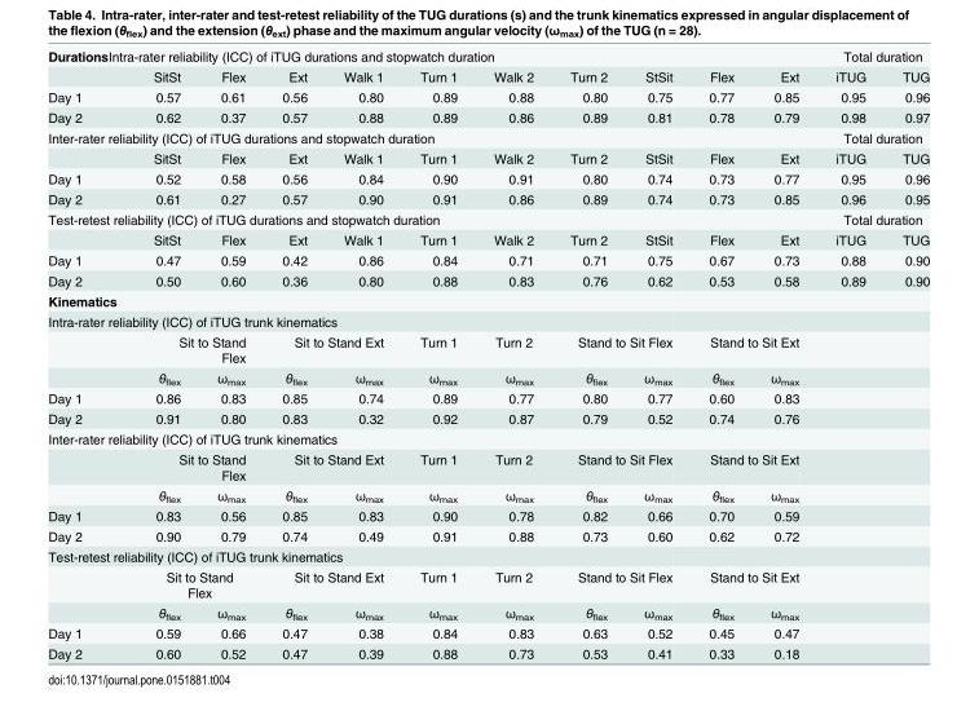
<table><tbody><tr><td colspan="9">DurationsIntra-rater reliability (ICC) of iTUG durations and stopwatch duration</td><td></td><td></td><td colspan="2">Total duration</td></tr><tr><td></td><td>SitSt</td><td>Flex</td><td>Ext</td><td>Walk 1</td><td>Turn 1</td><td>Walk 2</td><td>Turn 2</td><td>StSit</td><td>Flex</td><td>Ext</td><td>iTUG</td><td>TUG</td></tr><tr><td>Day 1</td><td>0.57</td><td>0.61</td><td>0.56</td><td>0.80</td><td>0.89</td><td>0.88</td><td>0.80</td><td>0.75</td><td>0.77</td><td>0.85</td><td>0.95</td><td>0.96</td></tr><tr><td>Day 2</td><td>0.62</td><td>0.37</td><td>0.57</td><td>0.88</td><td>0.89</td><td>0.86</td><td>0.89</td><td>0.81</td><td>0.78</td><td>0.79</td><td>0.98</td><td>0.97</td></tr><tr><td colspan="9">Inter-rater reliability (ICC) of iTUG durations and stopwatch duration</td><td></td><td></td><td colspan="2">Total duration</td></tr><tr><td></td><td>SitSt</td><td>Flex</td><td>Ext</td><td>Walk 1</td><td>Turn 1</td><td>Walk 2</td><td>Turn 2</td><td>StSit</td><td>Flex</td><td>Ext</td><td>iTUG</td><td>TUG</td></tr><tr><td>Day 1</td><td>0.52</td><td>0.58</td><td>0.56</td><td>0.84</td><td>0.90</td><td>0.91</td><td>0.80</td><td>0.74</td><td>0.73</td><td>0.77</td><td>0.95</td><td>0.96</td></tr><tr><td>Day 2</td><td>0.61</td><td>0.27</td><td>0.57</td><td>0.90</td><td>0.91</td><td>0.86</td><td>0.89</td><td>0.74</td><td>0.73</td><td>0.85</td><td>0.96</td><td>0.95</td></tr><tr><td colspan="9">Test-retest reliability (ICC) of iTUG durations and stopwatch duration</td><td></td><td></td><td colspan="2">Total duration</td></tr><tr><td></td><td>SitSt</td><td>Flex</td><td>Ext</td><td>Walk 1</td><td>Turn 1</td><td>Walk 2</td><td>Turn 2</td><td>StSit</td><td>Flex</td><td>Ext</td><td>iTUG</td><td>TUG</td></tr><tr><td>Day 1</td><td>0.47</td><td>0.59</td><td>0.42</td><td>0.86</td><td>0.84</td><td>0.71</td><td>0.71</td><td>0.75</td><td>0.67</td><td>0.73</td><td>0.88</td><td>0.90</td></tr><tr><td>Day 2</td><td>0.50</td><td>0.60</td><td>0.36</td><td>0.80</td><td>0.88</td><td>0.83</td><td>0.76</td><td>0.62</td><td>0.53</td><td>0.58</td><td>0.89</td><td>0.90</td></tr><tr><td colspan="13">Kinematics</td></tr><tr><td colspan="13">Intra-rater reliability (ICC) of iTUG trunk kinematics</td></tr><tr><td></td><td colspan="2">Sit to Stand Flex</td><td colspan="2">Sit to Stand Ext</td><td>Turn 1</td><td>Turn 2</td><td colspan="2">Stand to Sit Flex</td><td colspan="2">Stand to Sit Ext</td><td></td><td></td></tr><tr><td></td><td>θ<sub>flex</sub></td><td>ω<sub>max</sub></td><td>θ<sub>flex</sub></td><td>ω<sub>max</sub></td><td>ω<sub>max</sub></td><td>ω<sub>max</sub></td><td>θ<sub>flex</sub></td><td>ω<sub>max</sub></td><td>θ<sub>flex</sub></td><td>ω<sub>max</sub></td><td></td><td></td></tr><tr><td>Day 1</td><td>0.86</td><td>0.83</td><td>0.85</td><td>0.74</td><td>0.89</td><td>0.77</td><td>0.80</td><td>0.77</td><td>0.60</td><td>0.83</td><td></td><td></td></tr><tr><td>Day 2</td><td>0.91</td><td>0.80</td><td>0.83</td><td>0.32</td><td>0.92</td><td>0.87</td><td>0.79</td><td>0.52</td><td>0.74</td><td>0.76</td><td></td><td></td></tr><tr><td colspan="13">Inter-rater reliability (ICC) of iTUG trunk kinematics</td></tr><tr><td></td><td colspan="2">Sit to Stand Flex</td><td colspan="2">Sit to Stand Ext</td><td>Turn 1</td><td>Turn 2</td><td colspan="2">Stand to Sit Flex</td><td colspan="2">Stand to Sit Ext</td><td></td><td></td></tr><tr><td></td><td>θ<sub>flex</sub></td><td>ω<sub>max</sub></td><td>θ<sub>flex</sub></td><td>ω<sub>max</sub></td><td>ω<sub>max</sub></td><td>ω<sub>max</sub></td><td>θ<sub>flex</sub></td><td>ω<sub>max</sub></td><td>θ<sub>flex</sub></td><td>ω<sub>max</sub></td><td></td><td></td></tr><tr><td>Day 1</td><td>0.83</td><td>0.56</td><td>0.85</td><td>0.83</td><td>0.90</td><td>0.78</td><td>0.82</td><td>0.66</td><td>0.70</td><td>0.59</td><td></td><td></td></tr><tr><td>Day 2</td><td>0.90</td><td>0.79</td><td>0.74</td><td>0.49</td><td>0.91</td><td>0.88</td><td>0.73</td><td>0.60</td><td>0.62</td><td>0.72</td><td></td><td></td></tr><tr><td colspan="13">Test-retest reliability (ICC) of iTUG trunk kinematics</td></tr><tr><td></td><td colspan="2">Sit to Stand Flex</td><td colspan="2">Sit to Stand Ext</td><td>Turn 1</td><td>Turn 2</td><td colspan="2">Stand to Sit Flex</td><td colspan="2">Stand to Sit Ext</td><td></td><td></td></tr><tr><td></td><td>θ<sub>flex</sub></td><td>ω<sub>max</sub></td><td>θ<sub>flex</sub></td><td>ω<sub>max</sub></td><td>ω<sub>max</sub></td><td>ω<sub>max</sub></td><td>θ<sub>flex</sub></td><td>ω<sub>max</sub></td><td>θ<sub>flex</sub></td><td>ω<sub>max</sub></td><td></td><td></td></tr><tr><td>Day 1</td><td>0.59</td><td>0.66</td><td>0.47</td><td>0.38</td><td>0.84</td><td>0.83</td><td>0.63</td><td>0.52</td><td>0.45</td><td>0.47</td><td></td><td></td></tr><tr><td>Day 2</td><td>0.60</td><td>0.52</td><td>0.47</td><td>0.39</td><td>0.88</td><td>0.73</td><td>0.53</td><td>0.41</td><td>0.33</td><td>0.18</td><td></td><td></td></tr></tbody></table>